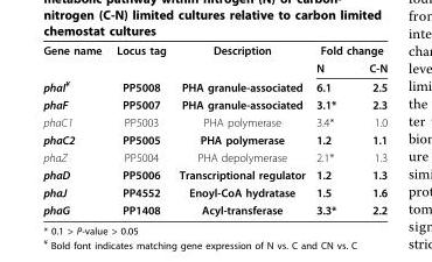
<table><tbody><tr><td rowspan="2">Gene name</td><td>Locus tag</td><td>Description</td><td colspan="2">Fold change</td></tr><tr><td></td><td></td><td>N</td><td>C-N</td></tr><tr><td>phaI<sup>¥</sup></td><td>PP5008</td><td>PHA granule-associated</td><td>6.1</td><td>2.5</td></tr><tr><td>phaF</td><td>PP5007</td><td>PHA granule-associated</td><td>3.1*</td><td>2.3</td></tr><tr><td>phaC1</td><td>PP5003</td><td>PHA polymerase</td><td>3.4*</td><td>1.0</td></tr><tr><td>phaC2</td><td>PP5005</td><td>PHA polymerase</td><td>1.2</td><td>1.1</td></tr><tr><td>phaZ</td><td>PP5004</td><td>PHA depolymerase</td><td>2.1*</td><td>1.3</td></tr><tr><td>phaD</td><td>PP5006</td><td>Transcriptional regulator</td><td>1.2</td><td>1.3</td></tr><tr><td>phaJ</td><td>PP4552</td><td>Enoyl-CoA hydratase</td><td>1.5</td><td>1.6</td></tr><tr><td>phaG</td><td>PP1408</td><td>Acyl-transferase</td><td>3.3*</td><td>2.2</td></tr></tbody></table>